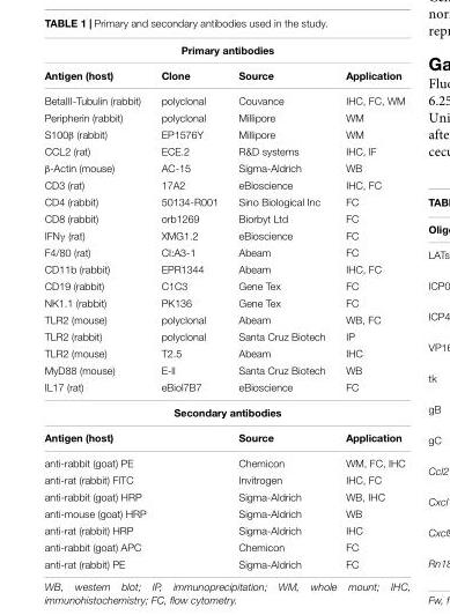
<table><thead><tr><td colspan="4">Primary antibodies</td></tr><tr><td>Antigen (host)</td><td>Clone</td><td>Source</td><td>Application</td></tr></thead><tbody><tr><td>BetaIII-Tubulin (rabbit)</td><td>polyclonal</td><td>Couvance</td><td>IHC, FC, WM</td></tr><tr><td>Peripherin (rabbit)</td><td>polyclonal</td><td>Millipore</td><td>WM</td></tr><tr><td>S100β (rabbit)</td><td>EP1576Y</td><td>Millipore</td><td>WM</td></tr><tr><td>CCL2 (rat)</td><td>ECE.2</td><td>R&amp;D systems</td><td>IHC, IF</td></tr><tr><td>β-Actin (mouse)</td><td>AC-15</td><td>Sigma-Aldrich</td><td>WB</td></tr><tr><td>CD3 (rat)</td><td>17A2</td><td>eBioscience</td><td>IHC, FC</td></tr><tr><td>CD4 (rabbit)</td><td>50134-R001</td><td>Sino Biological Inc</td><td>FC</td></tr><tr><td>CD8 (rabbit)</td><td>orb1269</td><td>Biorbyt Ltd</td><td>FC</td></tr><tr><td>IFNγ (rat)</td><td>XMG1.2</td><td>eBioscience</td><td>FC</td></tr><tr><td>F4/80 (rat)</td><td>CI:A3-1</td><td>Abeam</td><td>FC</td></tr><tr><td>CD11b (rabbit)</td><td>EPR1344</td><td>Abeam</td><td>IHC, FC</td></tr><tr><td>CD19 (rabbit)</td><td>C1C3</td><td>Gene Tex</td><td>FC</td></tr><tr><td>NK1.1 (rabbit)</td><td>PK136</td><td>Gene Tex</td><td>FC</td></tr><tr><td>TLR2 (mouse)</td><td>polyclonal</td><td>Abeam</td><td>WB, FC</td></tr><tr><td>TLR2 (rabbit)</td><td>polyclonal</td><td>Santa Cruz Biotech</td><td>IP</td></tr><tr><td>TLR2 (mouse)</td><td>T2.5</td><td>Abeam</td><td>IHC</td></tr><tr><td>MyD88 (mouse)</td><td>E-ll</td><td>Santa Cruz Biotech</td><td>WB</td></tr><tr><td>IL17 (rat)</td><td>eBiol7B7</td><td>eBioscience</td><td>FC</td></tr><tr><td colspan="4">Secondary antibodies</td></tr><tr><td colspan="2">Antigen (host)</td><td>Source</td><td>Application</td></tr><tr><td colspan="2">anti-rabbit (goat) PE</td><td>Chemicon</td><td>WM, FC, IHC</td></tr><tr><td colspan="2">anti-rat (rabbit) FITC</td><td>Invitrogen</td><td>IHC, FC</td></tr><tr><td colspan="2">anti-rabbit (goat) HRP</td><td>Sigma-Aldrich</td><td>WB, IHC</td></tr><tr><td colspan="2">anti-mouse (goat) HRP</td><td>Sigma-Aldrich</td><td>WB</td></tr><tr><td colspan="2">anti-rat (rabbit) HRP</td><td>Sigma-Aldrich</td><td>IHC</td></tr><tr><td colspan="2">anti-rabbit (goat) APC</td><td>Chemicon</td><td>FC</td></tr><tr><td colspan="2">anti-rat (rabbit) PE</td><td>Sigma-Aldrich</td><td>FC</td></tr></tbody></table>